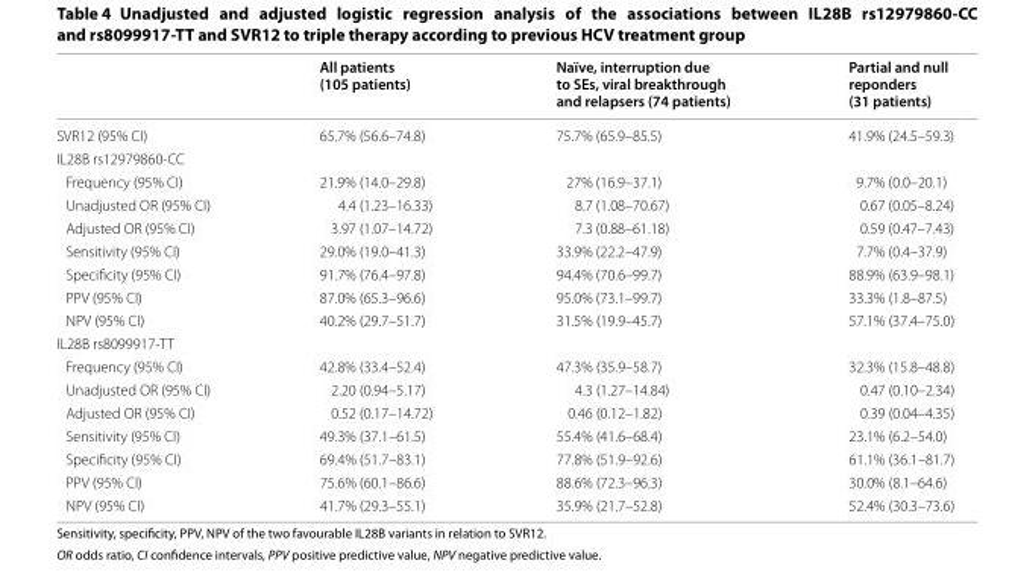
<table><thead><tr><td></td><td>All patients (105 patients)</td><td>Naïve, interruption due to SEs, viral breakthrough and relapsers (74 patients)</td><td>Partial and null reponders (31 patients)</td></tr></thead><tbody><tr><td>SVR12 (95% CI)</td><td>65.7% (56.6–74.8)</td><td>75.7% (65.9–85.5)</td><td>41.9% (24.5–59.3)</td></tr><tr><td colspan="4">IL28B rs12979860-CC</td></tr><tr><td>Frequency (95% CI)</td><td>21.9% (14.0–29.8)</td><td>27% (16.9–37.1)</td><td>9.7% (0.0–20.1)</td></tr><tr><td>Unadjusted OR (95% CI)</td><td>4.4 (1.23–16.33)</td><td>8.7 (1.08–70.67)</td><td>0.67 (0.05–8.24)</td></tr><tr><td>Adjusted OR (95% CI)</td><td>3.97 (1.07–14.72)</td><td>7.3 (0.88–61.18)</td><td>0.59 (0.47–7.43)</td></tr><tr><td>Sensitivity (95% CI)</td><td>29.0% (19.0–41.3)</td><td>33.9% (22.2–47.9)</td><td>7.7% (0.4–37.9)</td></tr><tr><td>Specificity (95% CI)</td><td>91.7% (76.4–97.8)</td><td>94.4% (70.6–99.7)</td><td>88.9% (63.9–98.1)</td></tr><tr><td>PPV (95% CI)</td><td>87.0% (65.3–96.6)</td><td>95.0% (73.1–99.7)</td><td>33.3% (1.8–87.5)</td></tr><tr><td>NPV (95% CI)</td><td>40.2% (29.7–51.7)</td><td>31.5% (19.9–45.7)</td><td>57.1% (37.4–75.0)</td></tr><tr><td colspan="4">IL28B rs8099917-TT</td></tr><tr><td>Frequency (95% CI)</td><td>42.8% (33.4–52.4)</td><td>47.3% (35.9–58.7)</td><td>32.3% (15.8–48.8)</td></tr><tr><td>Unadjusted OR (95% CI)</td><td>2.20 (0.94–5.17)</td><td>4.3 (1.27–14.84)</td><td>0.47 (0.10–2.34)</td></tr><tr><td>Adjusted OR (95% CI)</td><td>0.52 (0.17–14.72)</td><td>0.46 (0.12–1.82)</td><td>0.39 (0.04–4.35)</td></tr><tr><td>Sensitivity (95% CI)</td><td>49.3% (37.1–61.5)</td><td>55.4% (41.6–68.4)</td><td>23.1% (6.2–54.0)</td></tr><tr><td>Specificity (95% CI)</td><td>69.4% (51.7–83.1)</td><td>77.8% (51.9–92.6)</td><td>61.1% (36.1–81.7)</td></tr><tr><td>PPV (95% CI)</td><td>75.6% (60.1–86.6)</td><td>88.6% (72.3–96.3)</td><td>30.0% (8.1–64.6)</td></tr><tr><td>NPV (95% CI)</td><td>41.7% (29.3–55.1)</td><td>35.9% (21.7–52.8)</td><td>52.4% (30.3–73.6)</td></tr></tbody></table>